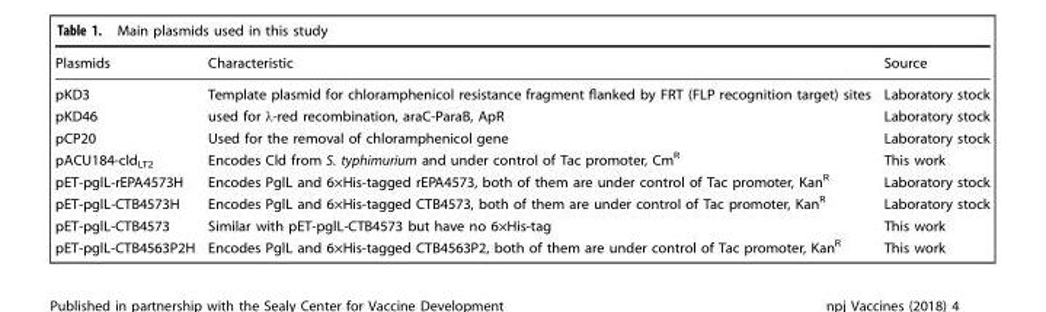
<table><thead><tr><td>Plasmids</td><td>Characteristic</td><td>Source</td></tr></thead><tbody><tr><td>pKD3</td><td>Template plasmid for chloramphenicol resistance fragment flanked by FRT (FLP recognition target) sites</td><td>Laboratory stock</td></tr><tr><td>pKD46</td><td>used for λ-red recombination, araC-ParaB, ApR</td><td>Laboratory stock</td></tr><tr><td>pCP20</td><td>Used for the removal of chloramphenicol gene</td><td>Laboratory stock</td></tr><tr><td>pACU184-cld<sub>LT2</sub></td><td>Encodes Cld from S. typhimurium and under control of Tac promoter, Cm<sup>R</sup></td><td>This work</td></tr><tr><td>pET-pglL-rEPA4573H</td><td>Encodes PglL and 6×His-tagged rEPA4573, both of them are under control of Tac promoter, Kan<sup>R</sup></td><td>Laboratory stock</td></tr><tr><td>pET-pglL-CTB4573H</td><td>Encodes PglL and 6×His-tagged CTB4573, both of them are under control of Tac promoter, Kan<sup>R</sup></td><td>Laboratory stock</td></tr><tr><td>pET-pglL-CTB4573</td><td>Similar with pET-pglL-CTB4573 but have no 6×His-tag</td><td>This work</td></tr><tr><td>pET-pglL-CTB4563P2H</td><td>Encodes PglL and 6×His-tagged CTB4563P2, both of them are under control of Tac promoter, Kan<sup>R</sup></td><td>This work</td></tr></tbody></table>